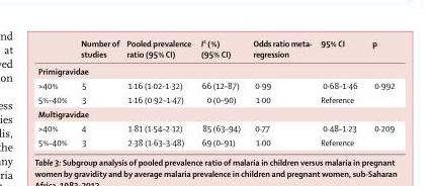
<table><thead><tr><td></td><td>Number of studies</td><td>Pooled prevalence ratio (95% CI)</td><td>I² (%) (95% CI)</td><td>Odds ratio meta- regression</td><td>95% CI</td><td>p</td></tr></thead><tbody><tr><td colspan="7">Primigravidae</td></tr><tr><td>&gt;40%</td><td>5</td><td>1·16 (1·02–1·32)</td><td>66 (12–87)</td><td>0·99</td><td>0·68–1·46</td><td>0·992</td></tr><tr><td>5%–40%</td><td>3</td><td>1·16 (0·92–1·47)</td><td>0 (0–90)</td><td>1·00</td><td>Reference</td><td></td></tr><tr><td colspan="7">Multigravidae</td></tr><tr><td>&gt;40%</td><td>4</td><td>1·81 (1·54–2·12)</td><td>85 (63–94)</td><td>0·77</td><td>0·48–1·23</td><td>0·209</td></tr><tr><td>5%–40%</td><td>3</td><td>2·38 (1·63–3·48)</td><td>69 (0–91)</td><td>1·00</td><td>Reference</td><td></td></tr></tbody></table>